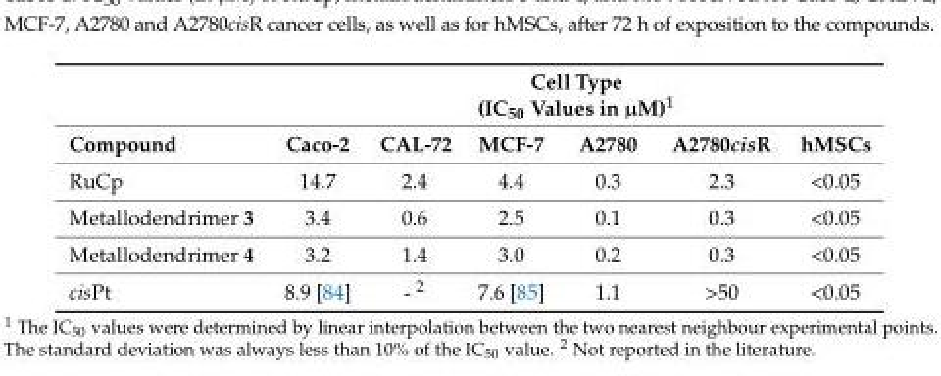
<table><thead><tr><td rowspan="2">Compound</td><td colspan="6">Cell Type (IC50 Values in µM)1</td></tr><tr><td>Caco-2</td><td>CAL-72</td><td>MCF-7</td><td>A2780</td><td>A2780cisR</td><td>hMSCs</td></tr></thead><tbody><tr><td>RuCp</td><td>14.7</td><td>2.4</td><td>4.4</td><td>0.3</td><td>2.3</td><td>&lt;0.05</td></tr><tr><td>Metallodendrimer 3</td><td>3.4</td><td>0.6</td><td>2.5</td><td>0.1</td><td>0.3</td><td>&lt;0.05</td></tr><tr><td>Metallodendrimer 4</td><td>3.2</td><td>1.4</td><td>3.0</td><td>0.2</td><td>0.3</td><td>&lt;0.05</td></tr><tr><td>cisPt</td><td>8.9 [84]</td><td>- 2</td><td>7.6 [85]</td><td>1.1</td><td>&gt;50</td><td>&lt;0.05</td></tr></tbody></table>